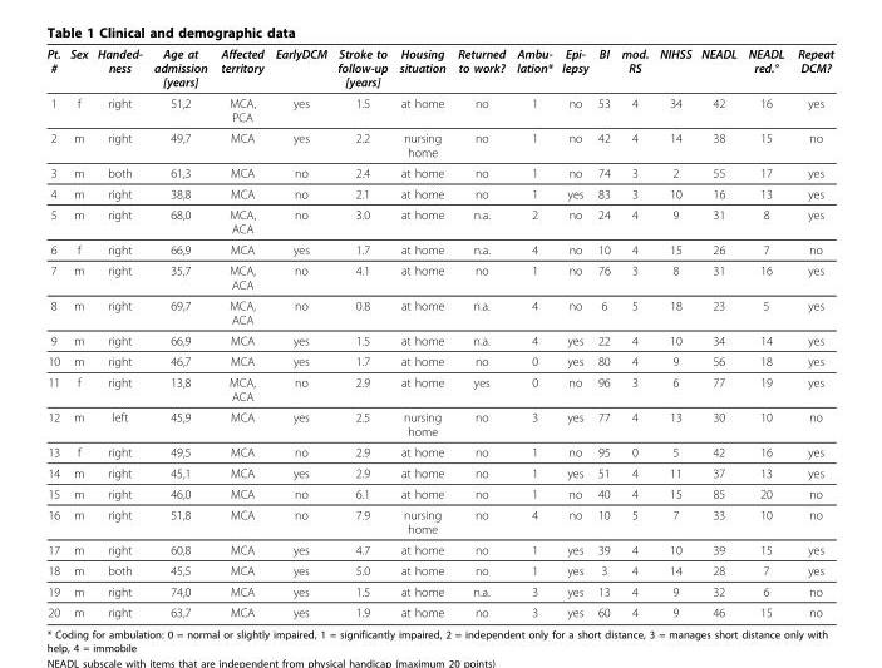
<table><thead><tr><td>Pt. #</td><td>Sex</td><td>Handed- ness</td><td>Age at admission [years]</td><td>Affected territory</td><td>EarlyDCM</td><td>Stroke to follow-up [years]</td><td>Housing situation</td><td>Returned to work?</td><td>Ambu- lation*</td><td>Epi- lepsy</td><td>BI</td><td>mod. RS</td><td>NIHSS</td><td>NEADL</td><td>NEADL red.°</td><td>Repeat DCM?</td></tr></thead><tbody><tr><td>1</td><td>f</td><td>right</td><td>51,2</td><td>MCA, PCA</td><td>yes</td><td>1.5</td><td>at home</td><td>no</td><td>1</td><td>no</td><td>53</td><td>4</td><td>34</td><td>42</td><td>16</td><td>yes</td></tr><tr><td>2</td><td>m</td><td>right</td><td>49,7</td><td>MCA</td><td>yes</td><td>2.2</td><td>nursing home</td><td>no</td><td>1</td><td>no</td><td>42</td><td>4</td><td>14</td><td>38</td><td>15</td><td>no</td></tr><tr><td>3</td><td>m</td><td>both</td><td>61,3</td><td>MCA</td><td>no</td><td>2.4</td><td>at home</td><td>no</td><td>1</td><td>no</td><td>74</td><td>3</td><td>2</td><td>55</td><td>17</td><td>yes</td></tr><tr><td>4</td><td>m</td><td>right</td><td>38,8</td><td>MCA</td><td>no</td><td>2.1</td><td>at home</td><td>no</td><td>1</td><td>yes</td><td>83</td><td>3</td><td>10</td><td>16</td><td>13</td><td>yes</td></tr><tr><td>5</td><td>m</td><td>right</td><td>68,0</td><td>MCA, ACA</td><td>no</td><td>3.0</td><td>at home</td><td>n.a.</td><td>2</td><td>no</td><td>24</td><td>4</td><td>9</td><td>31</td><td>8</td><td>yes</td></tr><tr><td>6</td><td>f</td><td>right</td><td>66,9</td><td>MCA</td><td>yes</td><td>1.7</td><td>at home</td><td>n.a.</td><td>4</td><td>no</td><td>10</td><td>4</td><td>15</td><td>26</td><td>7</td><td>no</td></tr><tr><td>7</td><td>m</td><td>right</td><td>35,7</td><td>MCA, ACA</td><td>no</td><td>4.1</td><td>at home</td><td>no</td><td>1</td><td>no</td><td>76</td><td>3</td><td>8</td><td>31</td><td>16</td><td>yes</td></tr><tr><td>8</td><td>m</td><td>right</td><td>69,7</td><td>MCA, ACA</td><td>no</td><td>0.8</td><td>at home</td><td>n.a.</td><td>4</td><td>no</td><td>6</td><td>5</td><td>18</td><td>23</td><td>5</td><td>yes</td></tr><tr><td>9</td><td>m</td><td>right</td><td>66,9</td><td>MCA</td><td>yes</td><td>1.5</td><td>at home</td><td>n.a.</td><td>4</td><td>yes</td><td>22</td><td>4</td><td>10</td><td>34</td><td>14</td><td>yes</td></tr><tr><td>10</td><td>m</td><td>right</td><td>46,7</td><td>MCA</td><td>yes</td><td>1.7</td><td>at home</td><td>no</td><td>0</td><td>yes</td><td>80</td><td>4</td><td>9</td><td>56</td><td>18</td><td>yes</td></tr><tr><td>11</td><td>f</td><td>right</td><td>13,8</td><td>MCA, ACA</td><td>no</td><td>2.9</td><td>at home</td><td>yes</td><td>0</td><td>no</td><td>96</td><td>3</td><td>6</td><td>77</td><td>19</td><td>yes</td></tr><tr><td>12</td><td>m</td><td>left</td><td>45,9</td><td>MCA</td><td>yes</td><td>2.5</td><td>nursing home</td><td>no</td><td>3</td><td>yes</td><td>77</td><td>4</td><td>13</td><td>30</td><td>10</td><td>no</td></tr><tr><td>13</td><td>f</td><td>right</td><td>49,5</td><td>MCA</td><td>no</td><td>2.9</td><td>at home</td><td>no</td><td>1</td><td>no</td><td>95</td><td>0</td><td>5</td><td>42</td><td>16</td><td>yes</td></tr><tr><td>14</td><td>m</td><td>right</td><td>45,1</td><td>MCA</td><td>yes</td><td>2.9</td><td>at home</td><td>no</td><td>1</td><td>yes</td><td>51</td><td>4</td><td>11</td><td>37</td><td>13</td><td>yes</td></tr><tr><td>15</td><td>m</td><td>right</td><td>46,0</td><td>MCA</td><td>no</td><td>6.1</td><td>at home</td><td>no</td><td>1</td><td>no</td><td>40</td><td>4</td><td>15</td><td>85</td><td>20</td><td>no</td></tr><tr><td>16</td><td>m</td><td>right</td><td>51,8</td><td>MCA</td><td>no</td><td>7.9</td><td>nursing home</td><td>no</td><td>4</td><td>no</td><td>10</td><td>5</td><td>7</td><td>33</td><td>10</td><td>no</td></tr><tr><td>17</td><td>m</td><td>right</td><td>60,8</td><td>MCA</td><td>yes</td><td>4.7</td><td>at home</td><td>no</td><td>1</td><td>yes</td><td>39</td><td>4</td><td>10</td><td>39</td><td>15</td><td>yes</td></tr><tr><td>18</td><td>m</td><td>both</td><td>45,5</td><td>MCA</td><td>yes</td><td>5.0</td><td>at home</td><td>no</td><td>1</td><td>yes</td><td>3</td><td>4</td><td>14</td><td>28</td><td>7</td><td>yes</td></tr><tr><td>19</td><td>m</td><td>right</td><td>74,0</td><td>MCA</td><td>yes</td><td>1.5</td><td>at home</td><td>n.a.</td><td>3</td><td>yes</td><td>13</td><td>4</td><td>9</td><td>32</td><td>6</td><td>no</td></tr><tr><td>20</td><td>m</td><td>right</td><td>63,7</td><td>MCA</td><td>yes</td><td>1.9</td><td>at home</td><td>no</td><td>3</td><td>yes</td><td>60</td><td>4</td><td>9</td><td>46</td><td>15</td><td>no</td></tr></tbody></table>